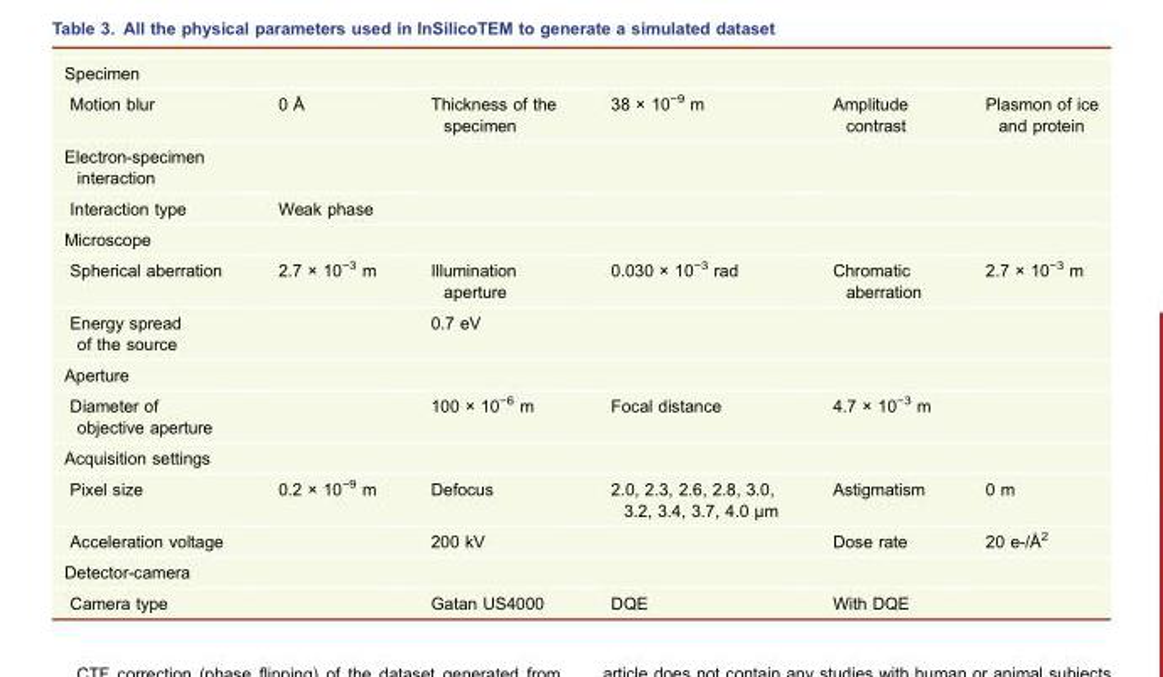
<table><tbody><tr><td colspan="6">Specimen</td></tr><tr><td>Motion blur</td><td>0 Å</td><td>Thickness of the specimen</td><td>38 × 10<sup>−9</sup> m</td><td>Amplitude contrast</td><td>Plasmon of ice and protein</td></tr><tr><td colspan="6">Electron-specimen interaction</td></tr><tr><td>Interaction type</td><td>Weak phase</td><td></td><td></td><td></td><td></td></tr><tr><td colspan="6">Microscope</td></tr><tr><td>Spherical aberration</td><td>2.7 × 10<sup>−3</sup> m</td><td>Illumination aperture</td><td>0.030 × 10<sup>−3</sup> rad</td><td>Chromatic aberration</td><td>2.7 × 10<sup>−3</sup> m</td></tr><tr><td>Energy spread of the source</td><td></td><td>0.7 eV</td><td></td><td></td><td></td></tr><tr><td colspan="6">Aperture</td></tr><tr><td>Diameter of objective aperture</td><td></td><td>100 × 10<sup>−6</sup> m</td><td>Focal distance</td><td>4.7 × 10<sup>−3</sup> m</td><td></td></tr><tr><td colspan="6">Acquisition settings</td></tr><tr><td>Pixel size</td><td>0.2 × 10<sup>−9</sup> m</td><td>Defocus</td><td>2.0, 2.3, 2.6, 2.8, 3.0, 3.2, 3.4, 3.7, 4.0 μm</td><td>Astigmatism</td><td>0 m</td></tr><tr><td>Acceleration voltage</td><td></td><td>200 kV</td><td></td><td>Dose rate</td><td>20 e-/Å<sup>2</sup></td></tr><tr><td colspan="6">Detector-camera</td></tr><tr><td>Camera type</td><td></td><td>Gatan US4000</td><td>DQE</td><td>With DQE</td><td></td></tr></tbody></table>